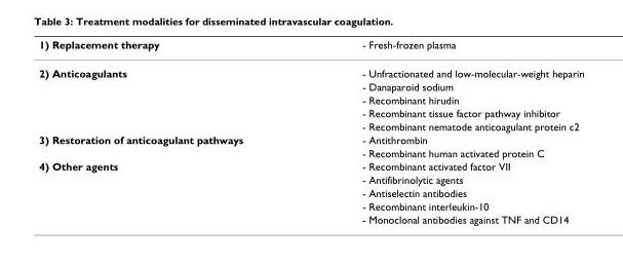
<table><thead><tr><td>1) Replacement therapy</td><td>- Fresh-frozen plasma</td></tr></thead><tbody><tr><td rowspan="5">2) Anticoagulants</td><td>- Unfractionated and low-molecular-weight heparin</td></tr><tr><td>- Danaparoid sodium</td></tr><tr><td>- Recombinant hirudin</td></tr><tr><td>- Recombinant tissue factor pathway inhibitor</td></tr><tr><td>- Recombinant nematode anticoagulant protein c2</td></tr><tr><td rowspan="2">3) Restoration of anticoagulant pathways</td><td>- Antithrombin</td></tr><tr><td>- Recombinant human activated protein C</td></tr><tr><td rowspan="5">4) Other agents</td><td>- Recombinant activated factor VII</td></tr><tr><td>- Antifibrinolytic agents</td></tr><tr><td>- Antiselectin antibodies</td></tr><tr><td>- Recombinant interleukin-10</td></tr><tr><td>- Monoclonal antibodies against TNF and CD14</td></tr></tbody></table>